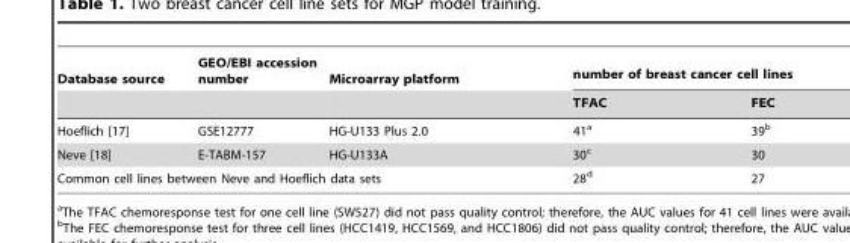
<table><thead><tr><td rowspan="2">Database source</td><td rowspan="2">GEO/EBI accession number</td><td rowspan="2">Microarray platform</td><td colspan="2">number of breast cancer cell lines</td></tr><tr><td>TFAC</td><td>FEC</td></tr></thead><tbody><tr><td>Hoeflich [17]</td><td>GSE12777</td><td>HG-U133 Plus 2.0</td><td>41<sup>a</sup></td><td>39<sup>b</sup></td></tr><tr><td>Neve [18]</td><td>E-TABM-157</td><td>HG-U133A</td><td>30<sup>c</sup></td><td>30</td></tr><tr><td colspan="3">Common cell lines between Neve and Hoeflich data sets</td><td>28<sup>d</sup></td><td>27</td></tr></tbody></table>